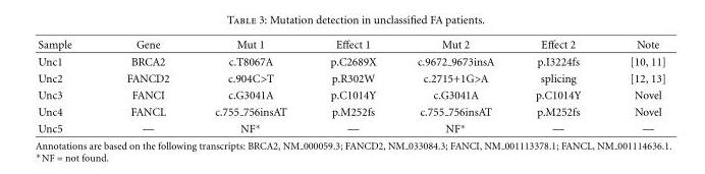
<table><thead><tr><td>Sample</td><td>Gene</td><td>Mut 1</td><td>Effect 1</td><td>Mut 2</td><td>Effect 2</td><td>Note</td></tr></thead><tbody><tr><td>Unc1</td><td>BRCA2</td><td>c.T8067A</td><td>p.C2689X</td><td>c.9672 9673insA</td><td>p.I3224fs</td><td>[10, 11]</td></tr><tr><td>Unc2</td><td>FANCD2</td><td>c.904C&gt;T</td><td>p.R302W</td><td>c.2715+1G&gt;A</td><td>splicing</td><td>[12, 13]</td></tr><tr><td>Unc3</td><td>FANCI</td><td>c.G3041A</td><td>p.C1014Y</td><td>c.G3041A</td><td>p.C1014Y</td><td>Novel</td></tr><tr><td>Unc4</td><td>FANCL</td><td>c.755 756insAT</td><td>p.M252fs</td><td>c.755 756insAT</td><td>p.M252fs</td><td>Novel</td></tr><tr><td>Unc5</td><td>—</td><td>NF∗</td><td>—</td><td>NF∗</td><td>—</td><td>—</td></tr></tbody></table>